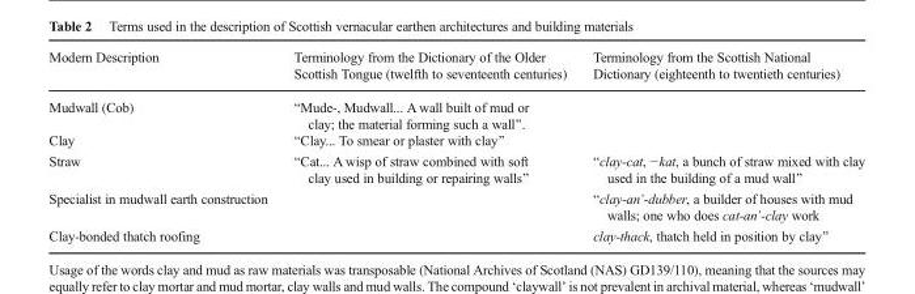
<table><thead><tr><td>Modern Description</td><td>Terminology from the Dictionary of the Older Scottish Tongue (twelfth to seventeenth centuries)</td><td>Terminology from the Scottish National Dictionary (eighteenth to twentieth centuries)</td></tr></thead><tbody><tr><td>Mudwall (Cob)</td><td>“Mude-, Mudwall... A wall built of mud or clay; the material forming such a wall”.</td><td></td></tr><tr><td>Clay</td><td>“Clay... To smear or plaster with clay”</td><td></td></tr><tr><td>Straw</td><td>“Cat... A wisp of straw combined with soft clay used in building or repairing walls”</td><td>“clay-cat, −kat, a bunch of straw mixed with clay used in the building of a mud wall”</td></tr><tr><td>Specialist in mudwall earth construction</td><td></td><td>“clay-an’-dubber, a builder of houses with mud walls; one who does cat-an’-clay work</td></tr><tr><td>Clay-bonded thatch roofing</td><td></td><td>clay-thack, thatch held in position by clay”</td></tr></tbody></table>